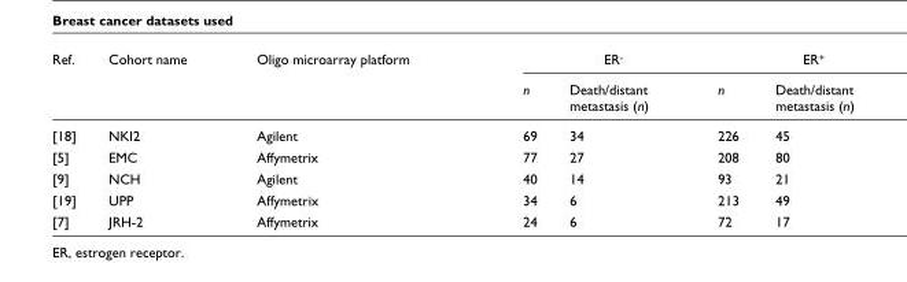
<table><thead><tr><td rowspan="2">Ref.</td><td rowspan="2">Cohort name</td><td rowspan="2">Oligo microarray platform</td><td colspan="2">ER<sup>-</sup></td><td colspan="2">ER<sup>+</sup></td></tr><tr><td>n</td><td>Death/distant metastasis (n)</td><td>n</td><td>Death/distant metastasis (n)</td></tr></thead><tbody><tr><td>[18]</td><td>NKI2</td><td>Agilent</td><td>69</td><td>34</td><td>226</td><td>45</td></tr><tr><td>[5]</td><td>EMC</td><td>Affymetrix</td><td>77</td><td>27</td><td>208</td><td>80</td></tr><tr><td>[9]</td><td>NCH</td><td>Agilent</td><td>40</td><td>14</td><td>93</td><td>21</td></tr><tr><td>[19]</td><td>UPP</td><td>Affymetrix</td><td>34</td><td>6</td><td>213</td><td>49</td></tr><tr><td>[7]</td><td>JRH-2</td><td>Affymetrix</td><td>24</td><td>6</td><td>72</td><td>17</td></tr></tbody></table>